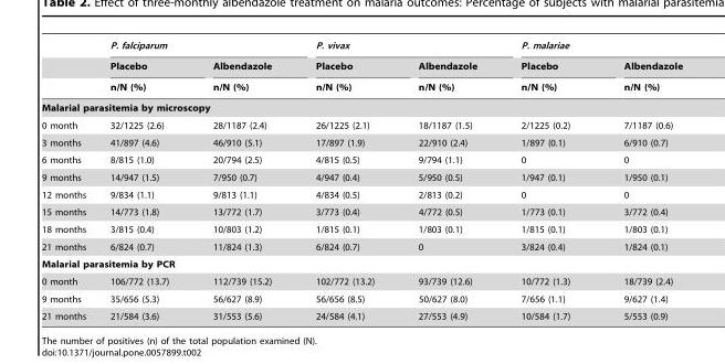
<table><thead><tr><td rowspan="3"></td><td colspan="2">P. falciparum</td><td colspan="2">P. vivax</td><td colspan="2">P. malariae</td></tr><tr><td rowspan="2">Placebo n/N (%)</td><td rowspan="2">Albendazole n/N (%)</td><td rowspan="2">Placebo n/N (%)</td><td rowspan="2">Albendazole n/N (%)</td><td rowspan="2">Placebo n/N (%)</td><td rowspan="2">Albendazole n/N (%)</td></tr><tr></tr></thead><tbody><tr><td colspan="7">Malarial parasitemia by microscopy</td></tr><tr><td>0 month</td><td>32/1225 (2.6)</td><td>28/1187 (2.4)</td><td>26/1225 (2.1)</td><td>18/1187 (1.5)</td><td>2/1225 (0.2)</td><td>7/1187 (0.6)</td></tr><tr><td>3 months</td><td>41/897 (4.6)</td><td>46/910 (5.1)</td><td>17/897 (1.9)</td><td>22/910 (2.4)</td><td>1/897 (0.1)</td><td>6/910 (0.7)</td></tr><tr><td>6 months</td><td>8/815 (1.0)</td><td>20/794 (2.5)</td><td>4/815 (0.5)</td><td>9/794 (1.1)</td><td>0</td><td>0</td></tr><tr><td>9 months</td><td>14/947 (1.5)</td><td>7/950 (0.7)</td><td>4/947 (0.4)</td><td>5/950 (0.5)</td><td>1/947 (0.1)</td><td>1/950 (0.1)</td></tr><tr><td>12 months</td><td>9/834 (1.1)</td><td>9/813 (1.1)</td><td>4/834 (0.5)</td><td>2/813 (0.2)</td><td>0</td><td>0</td></tr><tr><td>15 months</td><td>14/773 (1.8)</td><td>13/772 (1.7)</td><td>3/773 (0.4)</td><td>4/772 (0.5)</td><td>1/773 (0.1)</td><td>3/772 (0.4)</td></tr><tr><td>18 months</td><td>3/815 (0.4)</td><td>10/803 (1.2)</td><td>1/815 (0.1)</td><td>1/803 (0.1)</td><td>1/815 (0.1)</td><td>1/803 (0.1)</td></tr><tr><td>21 months</td><td>6/824 (0.7)</td><td>11/824 (1.3)</td><td>6/824 (0.7)</td><td>0</td><td>3/824 (0.4)</td><td>1/824 (0.1)</td></tr><tr><td colspan="7">Malarial parasitemia by PCR</td></tr><tr><td>0 month</td><td>106/772 (13.7)</td><td>112/739 (15.2)</td><td>102/772 (13.2)</td><td>93/739 (12.6)</td><td>10/772 (1.3)</td><td>18/739 (2.4)</td></tr><tr><td>9 months</td><td>35/656 (5.3)</td><td>56/627 (8.9)</td><td>56/656 (8.5)</td><td>50/627 (8.0)</td><td>7/656 (1.1)</td><td>9/627 (1.4)</td></tr><tr><td>21 months</td><td>21/584 (3.6)</td><td>31/553 (5.6)</td><td>24/584 (4.1)</td><td>27/553 (4.9)</td><td>10/584 (1.7)</td><td>5/553 (0.9)</td></tr></tbody></table>